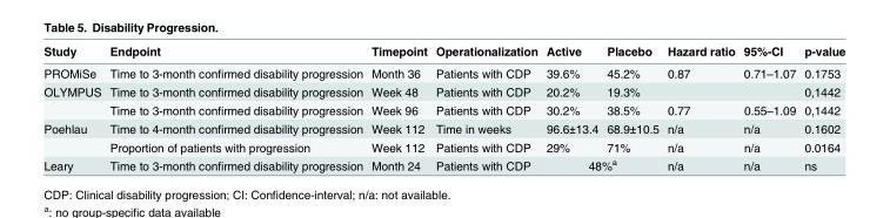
<table><thead><tr><td>Study</td><td>Endpoint</td><td>Timepoint</td><td>Operationalization</td><td>Active</td><td>Placebo</td><td>Hazard ratio</td><td>95%-CI</td><td>p-value</td></tr></thead><tbody><tr><td>PROMiSe</td><td>Time to 3-month confirmed disability progression</td><td>Month 36</td><td>Patients with CDP</td><td>39.6%</td><td>45.2%</td><td>0.87</td><td>0.71–1.07</td><td>0.1753</td></tr><tr><td rowspan="2">OLYMPUS</td><td>Time to 3-month confirmed disability progression</td><td>Week 48</td><td>Patients with CDP</td><td>20.2%</td><td>19.3%</td><td></td><td></td><td>0,1442</td></tr><tr><td>Time to 3-month confirmed disability progression</td><td>Week 96</td><td>Patients with CDP</td><td>30.2%</td><td>38.5%</td><td>0.77</td><td>0.55–1.09</td><td>0,1442</td></tr><tr><td rowspan="2">Poehlau</td><td>Time to 4-month confirmed disability progression</td><td>Week 112</td><td>Time in weeks</td><td>96.6±13.4</td><td>68.9±10.5</td><td>n/a</td><td>n/a</td><td>0.1602</td></tr><tr><td>Proportion of patients with progression</td><td>Week 112</td><td>Patients with CDP</td><td>29%</td><td>71%</td><td>n/a</td><td>n/a</td><td>0.0164</td></tr><tr><td>Leary</td><td>Time to 3-month confirmed disability progression</td><td>Month 24</td><td>Patients with CDP</td><td colspan="2">48%<sup>a</sup></td><td>n/a</td><td>n/a</td><td>ns</td></tr></tbody></table>